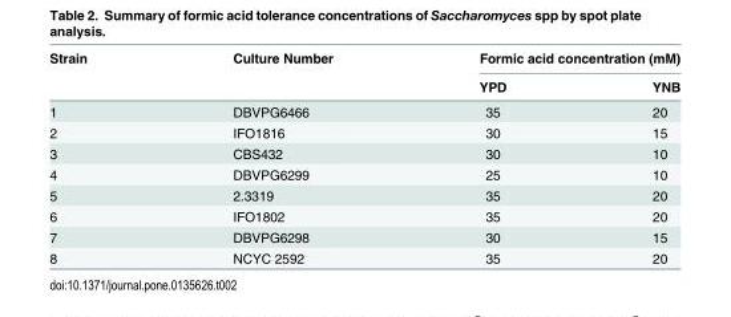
<table><thead><tr><td rowspan="2">Strain</td><td rowspan="2">Culture Number</td><td colspan="2">Formic acid concentration (mM)</td></tr><tr><td>YPD</td><td>YNB</td></tr></thead><tbody><tr><td>1</td><td>DBVPG6466</td><td>35</td><td>20</td></tr><tr><td>2</td><td>IFO1816</td><td>30</td><td>15</td></tr><tr><td>3</td><td>CBS432</td><td>30</td><td>10</td></tr><tr><td>4</td><td>DBVPG6299</td><td>25</td><td>10</td></tr><tr><td>5</td><td>2.3319</td><td>35</td><td>20</td></tr><tr><td>6</td><td>IFO1802</td><td>35</td><td>20</td></tr><tr><td>7</td><td>DBVPG6298</td><td>30</td><td>15</td></tr><tr><td>8</td><td>NCYC 2592</td><td>35</td><td>20</td></tr></tbody></table>